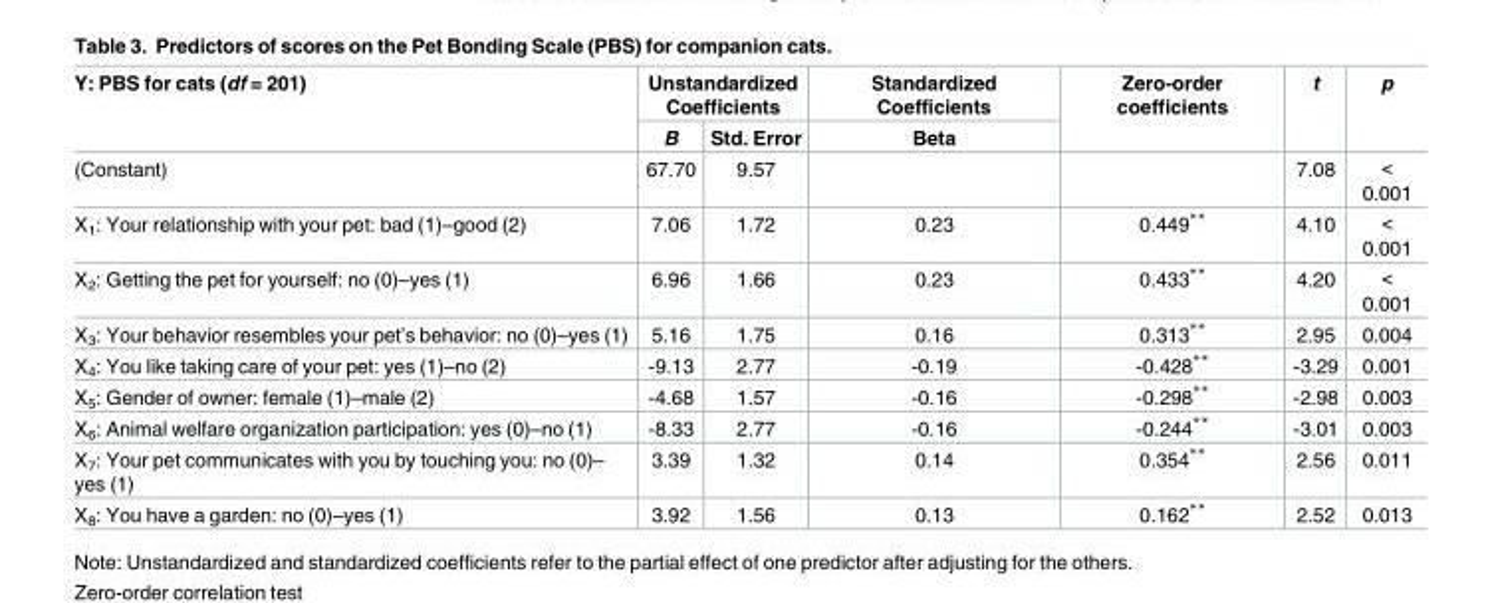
<table><thead><tr><td rowspan="2">Y: PBS for cats (df = 201)</td><td colspan="2">Unstandardized Coefficients</td><td rowspan="2">Standardized Coefficients Beta</td><td rowspan="2">Zero-order coefficients</td><td rowspan="2">t</td><td rowspan="2">p</td></tr><tr><td>B</td><td>Std. Error</td></tr></thead><tbody><tr><td>(Constant)</td><td>67.70</td><td>9.57</td><td></td><td></td><td>7.08</td><td>&lt; 0.001</td></tr><tr><td>X<sub>1</sub>: Your relationship with your pet: bad (1)–good (2)</td><td>7.06</td><td>1.72</td><td>0.23</td><td>0.449**</td><td>4.10</td><td>&lt; 0.001</td></tr><tr><td>X<sub>2</sub>: Getting the pet for yourself: no (0)–yes (1)</td><td>6.96</td><td>1.66</td><td>0.23</td><td>0.433**</td><td>4.20</td><td>&lt; 0.001</td></tr><tr><td>X<sub>3</sub>: Your behavior resembles your pet’s behavior: no (0)–yes (1)</td><td>5.16</td><td>1.75</td><td>0.16</td><td>0.313**</td><td>2.95</td><td>0.004</td></tr><tr><td>X<sub>4</sub>: You like taking care of your pet: yes (1)–no (2)</td><td>-9.13</td><td>2.77</td><td>-0.19</td><td>-0.428**</td><td>-3.29</td><td>0.001</td></tr><tr><td>X<sub>5</sub>: Gender of owner: female (1)–male (2)</td><td>-4.68</td><td>1.57</td><td>-0.16</td><td>-0.298**</td><td>-2.98</td><td>0.003</td></tr><tr><td>X<sub>6</sub>: Animal welfare organization participation: yes (0)–no (1)</td><td>-8.33</td><td>2.77</td><td>-0.16</td><td>-0.244**</td><td>-3.01</td><td>0.003</td></tr><tr><td>X<sub>7</sub>: Your pet communicates with you by touching you: no (0)– yes (1)</td><td>3.39</td><td>1.32</td><td>0.14</td><td>0.354**</td><td>2.56</td><td>0.011</td></tr><tr><td>X<sub>8</sub>: You have a garden: no (0)–yes (1)</td><td>3.92</td><td>1.56</td><td>0.13</td><td>0.162**</td><td>2.52</td><td>0.013</td></tr></tbody></table>